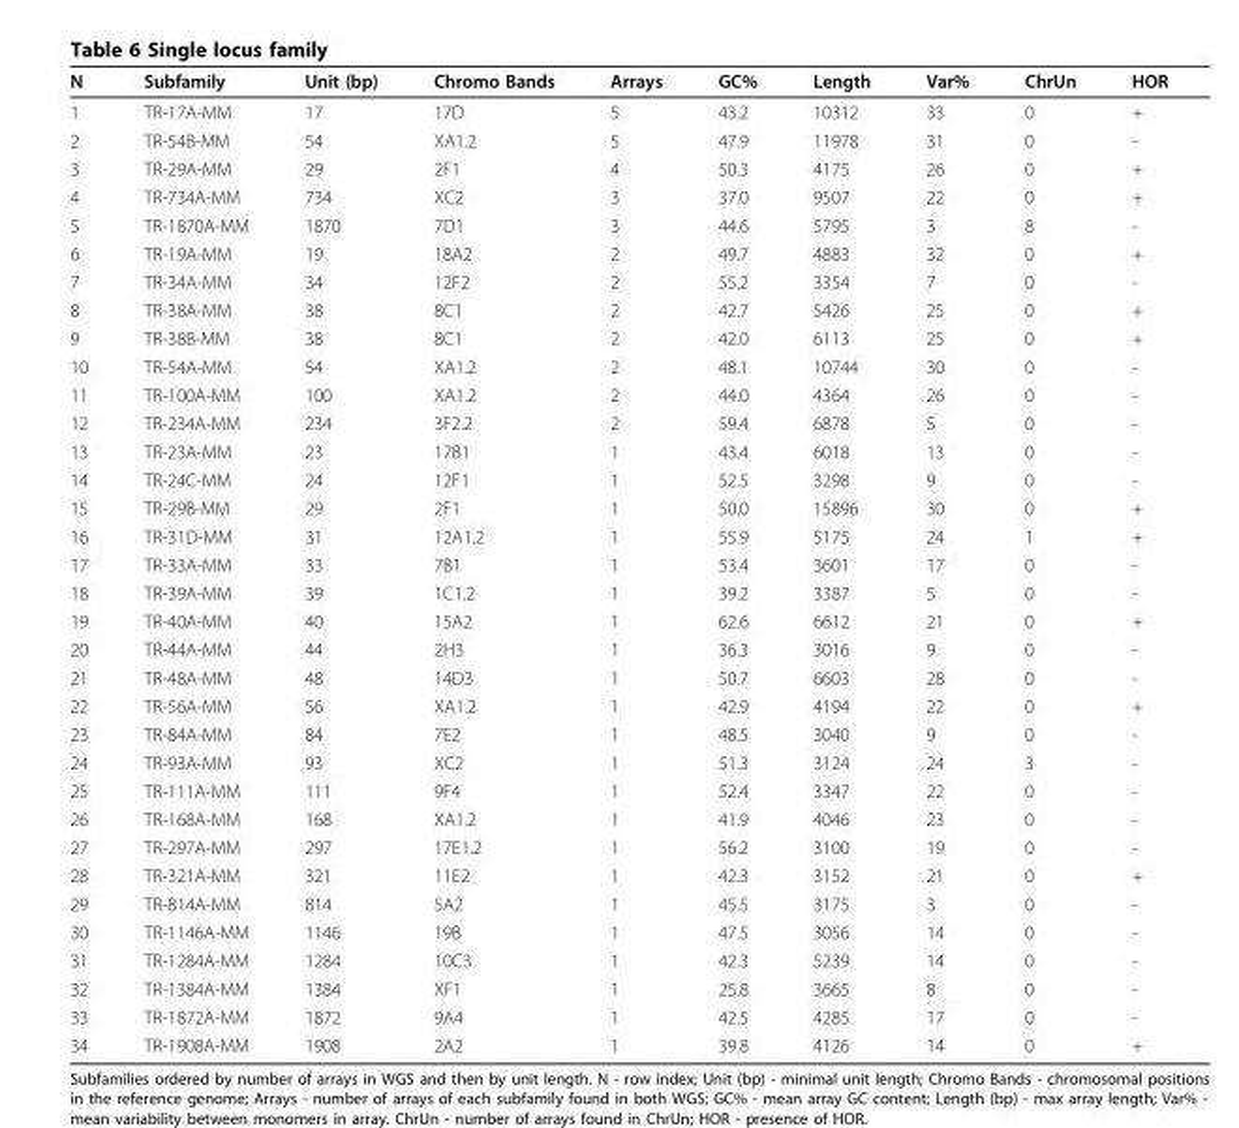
<table><thead><tr><td>N</td><td>Subfamily</td><td>Unit (bp)</td><td>Chromo Bands</td><td>Arrays</td><td>GC%</td><td>Length</td><td>Var%</td><td>ChrUn</td><td>HOR</td></tr></thead><tbody><tr><td>1</td><td>TR-17A-MM</td><td>17</td><td>17D</td><td>5</td><td>43.2</td><td>10312</td><td>33</td><td>0</td><td>+</td></tr><tr><td>2</td><td>TR-54B-MM</td><td>54</td><td>XA1.2</td><td>5</td><td>47.9</td><td>11978</td><td>31</td><td>0</td><td>-</td></tr><tr><td>3</td><td>TR-29A-MM</td><td>29</td><td>2F1</td><td>4</td><td>50.3</td><td>4175</td><td>26</td><td>0</td><td>+</td></tr><tr><td>4</td><td>TR-734A-MM</td><td>734</td><td>XC2</td><td>3</td><td>37.0</td><td>9507</td><td>22</td><td>0</td><td>+</td></tr><tr><td>5</td><td>TR-1870A-MM</td><td>1870</td><td>7D1</td><td>3</td><td>44.6</td><td>5795</td><td>3</td><td>8</td><td>-</td></tr><tr><td>6</td><td>TR-19A-MM</td><td>19</td><td>18A2</td><td>2</td><td>49.7</td><td>4883</td><td>32</td><td>0</td><td>+</td></tr><tr><td>7</td><td>TR-34A-MM</td><td>34</td><td>12F2</td><td>2</td><td>55.2</td><td>3354</td><td>7</td><td>0</td><td>-</td></tr><tr><td>8</td><td>TR-38A-MM</td><td>38</td><td>8C1</td><td>2</td><td>42.7</td><td>5426</td><td>25</td><td>0</td><td>+</td></tr><tr><td>9</td><td>TR-38B-MM</td><td>38</td><td>8C1</td><td>2</td><td>42.0</td><td>6113</td><td>25</td><td>0</td><td>+</td></tr><tr><td>10</td><td>TR-54A-MM</td><td>54</td><td>XA1.2</td><td>2</td><td>48.1</td><td>10744</td><td>30</td><td>0</td><td>-</td></tr><tr><td>11</td><td>TR-100A-MM</td><td>100</td><td>XA1.2</td><td>2</td><td>44.0</td><td>4364</td><td>26</td><td>0</td><td>-</td></tr><tr><td>12</td><td>TR-234A-MM</td><td>234</td><td>3F2.2</td><td>2</td><td>59.4</td><td>6878</td><td>5</td><td>0</td><td>-</td></tr><tr><td>13</td><td>TR-23A-MM</td><td>23</td><td>17B1</td><td>1</td><td>43.4</td><td>6018</td><td>13</td><td>0</td><td>-</td></tr><tr><td>14</td><td>TR-24C-MM</td><td>24</td><td>12F1</td><td>1</td><td>52.5</td><td>3298</td><td>9</td><td>0</td><td>-</td></tr><tr><td>15</td><td>TR-29B-MM</td><td>29</td><td>2F1</td><td>1</td><td>50.0</td><td>15896</td><td>30</td><td>0</td><td>+</td></tr><tr><td>16</td><td>TR-31D-MM</td><td>31</td><td>12A1.2</td><td>1</td><td>55.9</td><td>5175</td><td>24</td><td>1</td><td>+</td></tr><tr><td>17</td><td>TR-33A-MM</td><td>33</td><td>7B1</td><td>1</td><td>53.4</td><td>3601</td><td>17</td><td>0</td><td>-</td></tr><tr><td>18</td><td>TR-39A-MM</td><td>39</td><td>1C1.2</td><td>1</td><td>39.2</td><td>3387</td><td>5</td><td>0</td><td>-</td></tr><tr><td>19</td><td>TR-40A-MM</td><td>40</td><td>15A2</td><td>1</td><td>62.6</td><td>6612</td><td>21</td><td>0</td><td>+</td></tr><tr><td>20</td><td>TR-44A-MM</td><td>44</td><td>2H3</td><td>1</td><td>36.3</td><td>3016</td><td>9</td><td>0</td><td>-</td></tr><tr><td>21</td><td>TR-48A-MM</td><td>48</td><td>14D3</td><td>1</td><td>50.7</td><td>6603</td><td>28</td><td>0</td><td>-</td></tr><tr><td>22</td><td>TR-56A-MM</td><td>56</td><td>XA1.2</td><td>1</td><td>42.9</td><td>4194</td><td>22</td><td>0</td><td>+</td></tr><tr><td>23</td><td>TR-84A-MM</td><td>84</td><td>7E2</td><td>1</td><td>48.5</td><td>3040</td><td>9</td><td>0</td><td>-</td></tr><tr><td>24</td><td>TR-93A-MM</td><td>93</td><td>XC2</td><td>1</td><td>51.3</td><td>3124</td><td>24</td><td>3</td><td>-</td></tr><tr><td>25</td><td>TR-111A-MM</td><td>111</td><td>9F4</td><td>1</td><td>52.4</td><td>3347</td><td>22</td><td>0</td><td>-</td></tr><tr><td>26</td><td>TR-168A-MM</td><td>168</td><td>XA1.2</td><td>1</td><td>41.9</td><td>4046</td><td>23</td><td>0</td><td>-</td></tr><tr><td>27</td><td>TR-297A-MM</td><td>297</td><td>17E1.2</td><td>1</td><td>56.2</td><td>3100</td><td>19</td><td>0</td><td>-</td></tr><tr><td>28</td><td>TR-321A-MM</td><td>321</td><td>11E2</td><td>1</td><td>42.3</td><td>3152</td><td>21</td><td>0</td><td>+</td></tr><tr><td>29</td><td>TR-814A-MM</td><td>814</td><td>5A2</td><td>1</td><td>45.5</td><td>3175</td><td>3</td><td>0</td><td>-</td></tr><tr><td>30</td><td>TR-1146A-MM</td><td>1146</td><td>19B</td><td>1</td><td>47.5</td><td>3056</td><td>14</td><td>0</td><td>-</td></tr><tr><td>31</td><td>TR-1284A-MM</td><td>1284</td><td>10C3</td><td>1</td><td>42.3</td><td>5239</td><td>14</td><td>0</td><td>-</td></tr><tr><td>32</td><td>TR-1384A-MM</td><td>1384</td><td>XF1</td><td>1</td><td>25.8</td><td>3665</td><td>8</td><td>0</td><td>-</td></tr><tr><td>33</td><td>TR-1872A-MM</td><td>1872</td><td>9A4</td><td>1</td><td>42.5</td><td>4285</td><td>17</td><td>0</td><td>-</td></tr><tr><td>34</td><td>TR-1908A-MM</td><td>1908</td><td>2A2</td><td>1</td><td>39.8</td><td>4126</td><td>14</td><td>0</td><td>+</td></tr></tbody></table>